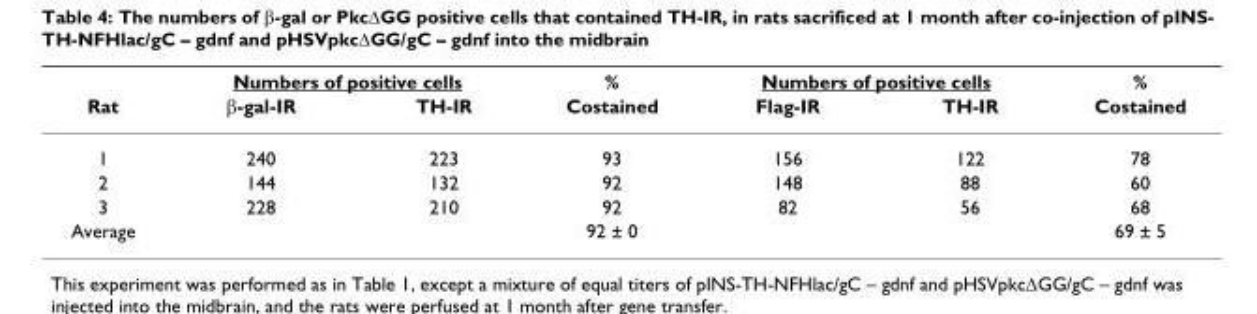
<table><thead><tr><td rowspan="2">Rat</td><td colspan="2">Numbers of positive cells</td><td rowspan="2">% Costained</td><td colspan="2">Numbers of positive cells</td><td rowspan="2">% Costained</td></tr><tr><td>β-gal-IR</td><td>TH-IR</td><td>Flag-IR</td><td>TH-IR</td></tr></thead><tbody><tr><td>1</td><td>240</td><td>223</td><td>93</td><td>156</td><td>122</td><td>78</td></tr><tr><td>2</td><td>144</td><td>132</td><td>92</td><td>148</td><td>88</td><td>60</td></tr><tr><td>3</td><td>228</td><td>210</td><td>92</td><td>82</td><td>56</td><td>68</td></tr><tr><td>Average</td><td></td><td></td><td>92 ± 0</td><td></td><td></td><td>69 ± 5</td></tr></tbody></table>